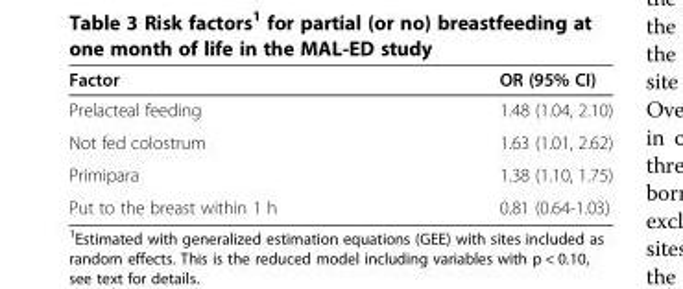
<table><thead><tr><td>Factor</td><td>OR (95% CI)</td></tr></thead><tbody><tr><td>Prelacteal feeding</td><td>1.48 (1.04, 2.10)</td></tr><tr><td>Not fed colostrum</td><td>1.63 (1.01, 2.62)</td></tr><tr><td>Primipara</td><td>1.38 (1.10, 1.75)</td></tr><tr><td>Put to the breast within 1 h</td><td>0.81 (0.64-1.03)</td></tr></tbody></table>